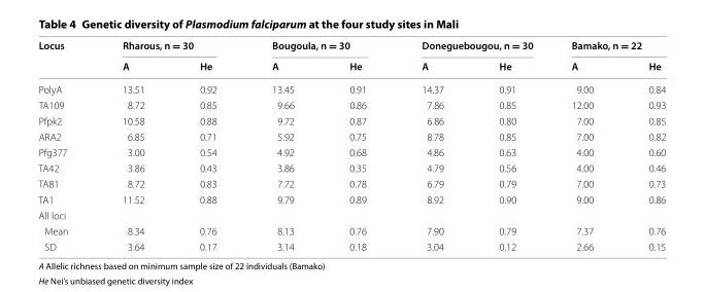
<table><thead><tr><td rowspan="2">Locus</td><td colspan="2">Rharous, n = 30</td><td colspan="2">Bougoula, n = 30</td><td colspan="2">Doneguebougou, n = 30</td><td colspan="2">Bamako, n = 22</td></tr><tr><td>A</td><td>He</td><td>A</td><td>He</td><td>A</td><td>He</td><td>A</td><td>He</td></tr></thead><tbody><tr><td>PolyA</td><td>13.51</td><td>0.92</td><td>13.45</td><td>0.91</td><td>14.37</td><td>0.91</td><td>9.00</td><td>0.84</td></tr><tr><td>TA109</td><td>8.72</td><td>0.85</td><td>9.66</td><td>0.86</td><td>7.86</td><td>0.85</td><td>12.00</td><td>0.93</td></tr><tr><td>Pfpk2</td><td>10.58</td><td>0.88</td><td>9.72</td><td>0.87</td><td>6.86</td><td>0.80</td><td>7.00</td><td>0.85</td></tr><tr><td>ARA2</td><td>6.85</td><td>0.71</td><td>5.92</td><td>0.75</td><td>8.78</td><td>0.85</td><td>7.00</td><td>0.82</td></tr><tr><td>Pfg377</td><td>3.00</td><td>0.54</td><td>4.92</td><td>0.68</td><td>4.86</td><td>0.63</td><td>4.00</td><td>0.60</td></tr><tr><td>TA42</td><td>3.86</td><td>0.43</td><td>3.86</td><td>0.35</td><td>4.79</td><td>0.56</td><td>4.00</td><td>0.46</td></tr><tr><td>TA81</td><td>8.72</td><td>0.83</td><td>7.72</td><td>0.78</td><td>6.79</td><td>0.79</td><td>7.00</td><td>0.73</td></tr><tr><td>TA1</td><td>11.52</td><td>0.88</td><td>9.79</td><td>0.89</td><td>8.92</td><td>0.90</td><td>9.00</td><td>0.86</td></tr><tr><td colspan="9">All loci</td></tr><tr><td>Mean</td><td>8.34</td><td>0.76</td><td>8.13</td><td>0.76</td><td>7.90</td><td>0.79</td><td>7.37</td><td>0.76</td></tr><tr><td>SD</td><td>3.64</td><td>0.17</td><td>3.14</td><td>0.18</td><td>3.04</td><td>0.12</td><td>2.66</td><td>0.15</td></tr></tbody></table>